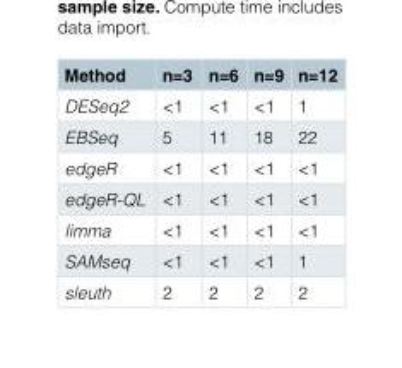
<table><thead><tr><td>Method</td><td>n=3</td><td>n=6</td><td>n=9</td><td>n=12</td></tr></thead><tbody><tr><td>DESeq2</td><td>&lt;1</td><td>&lt;1</td><td>&lt;1</td><td>1</td></tr><tr><td>EBSeq</td><td>5</td><td>11</td><td>18</td><td>22</td></tr><tr><td>edgeR</td><td>&lt;1</td><td>&lt;1</td><td>&lt;1</td><td>&lt;1</td></tr><tr><td>edgeR-QL</td><td>&lt;1</td><td>&lt;1</td><td>&lt;1</td><td>&lt;1</td></tr><tr><td>limma</td><td>&lt;1</td><td>&lt;1</td><td>&lt;1</td><td>&lt;1</td></tr><tr><td>SAMseq</td><td>&lt;1</td><td>&lt;1</td><td>&lt;1</td><td>1</td></tr><tr><td>sleuth</td><td>2</td><td>2</td><td>2</td><td>2</td></tr></tbody></table>